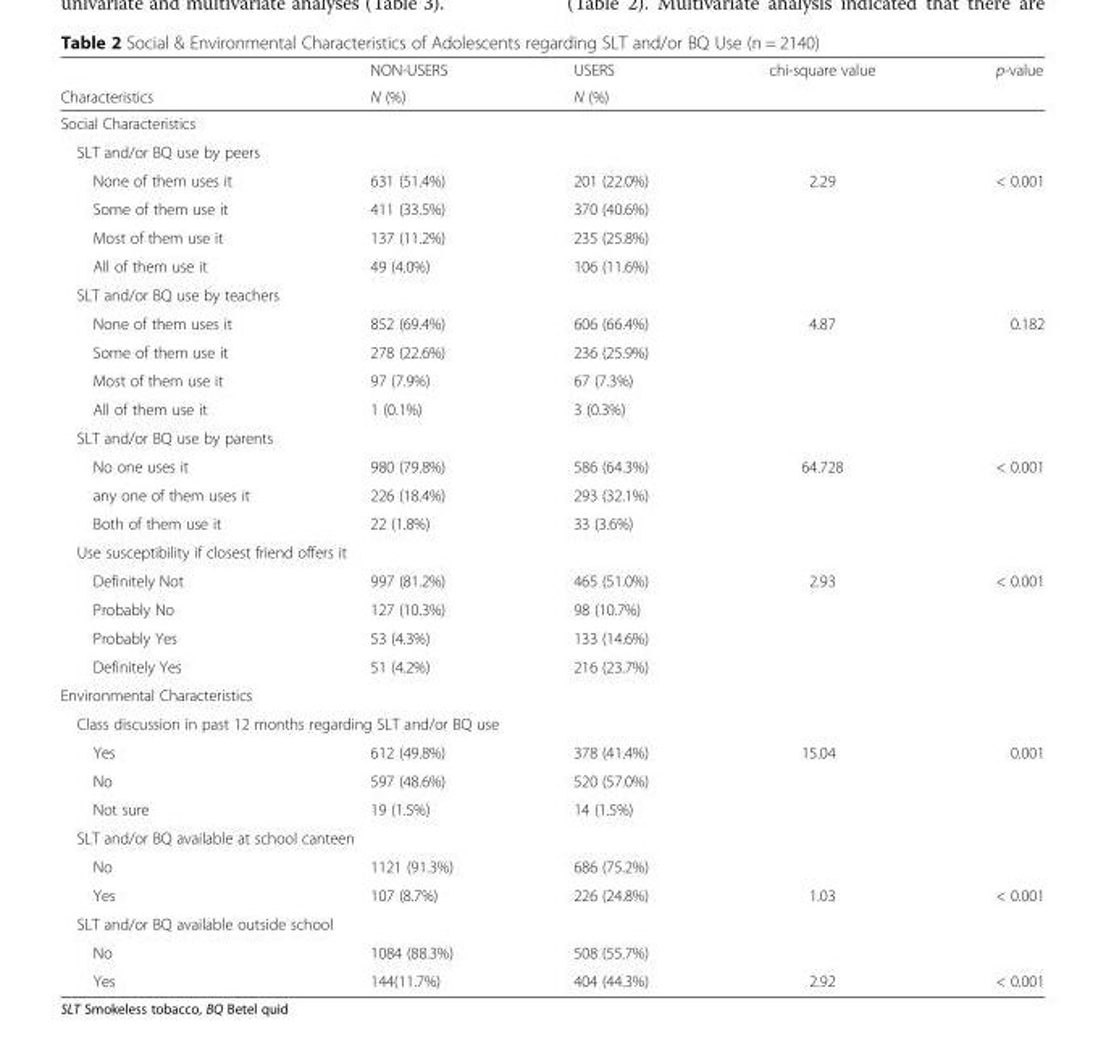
<table><thead><tr><td rowspan="2">Characteristics</td><td rowspan="2">NON-USERS N (%)</td><td rowspan="2">USERS N (%)</td><td rowspan="2">chi-square value</td><td rowspan="2">p-value</td></tr><tr></tr></thead><tbody><tr><td colspan="5">Social Characteristics</td></tr><tr><td colspan="5">SLT and/or BQ use by peers</td></tr><tr><td>None of them uses it</td><td>631 (51.4%)</td><td>201 (22.0%)</td><td>2.29</td><td>&lt; 0.001</td></tr><tr><td>Some of them use it</td><td>411 (33.5%)</td><td>370 (40.6%)</td><td></td><td></td></tr><tr><td>Most of them use it</td><td>137 (11.2%)</td><td>235 (25.8%)</td><td></td><td></td></tr><tr><td>All of them use it</td><td>49 (4.0%)</td><td>106 (11.6%)</td><td></td><td></td></tr><tr><td colspan="5">SLT and/or BQ use by teachers</td></tr><tr><td>None of them uses it</td><td>852 (69.4%)</td><td>606 (66.4%)</td><td>4.87</td><td>0.182</td></tr><tr><td>Some of them use it</td><td>278 (22.6%)</td><td>236 (25.9%)</td><td></td><td></td></tr><tr><td>Most of them use it</td><td>97 (7.9%)</td><td>67 (7.3%)</td><td></td><td></td></tr><tr><td>All of them use it</td><td>1 (0.1%)</td><td>3 (0.3%)</td><td></td><td></td></tr><tr><td colspan="5">SLT and/or BQ use by parents</td></tr><tr><td>No one uses it</td><td>980 (79.8%)</td><td>586 (64.3%)</td><td>64.728</td><td>&lt; 0.001</td></tr><tr><td>any one of them uses it</td><td>226 (18.4%)</td><td>293 (32.1%)</td><td></td><td></td></tr><tr><td>Both of them use it</td><td>22 (1.8%)</td><td>33 (3.6%)</td><td></td><td></td></tr><tr><td colspan="5">Use susceptibility if closest friend offers it</td></tr><tr><td>Definitely Not</td><td>997 (81.2%)</td><td>465 (51.0%)</td><td>2.93</td><td>&lt; 0.001</td></tr><tr><td>Probably No</td><td>127 (10.3%)</td><td>98 (10.7%)</td><td></td><td></td></tr><tr><td>Probably Yes</td><td>53 (4.3%)</td><td>133 (14.6%)</td><td></td><td></td></tr><tr><td>Definitely Yes</td><td>51 (4.2%)</td><td>216 (23.7%)</td><td></td><td></td></tr><tr><td colspan="5">Environmental Characteristics</td></tr><tr><td colspan="5">Class discussion in past 12 months regarding SLT and/or BQ use</td></tr><tr><td>Yes</td><td>612 (49.8%)</td><td>378 (41.4%)</td><td>15.04</td><td>0.001</td></tr><tr><td>No</td><td>597 (48.6%)</td><td>520 (57.0%)</td><td></td><td></td></tr><tr><td>Not sure</td><td>19 (1.5%)</td><td>14 (1.5%)</td><td></td><td></td></tr><tr><td colspan="5">SLT and/or BQ available at school canteen</td></tr><tr><td>No</td><td>1121 (91.3%)</td><td>686 (75.2%)</td><td></td><td></td></tr><tr><td>Yes</td><td>107 (8.7%)</td><td>226 (24.8%)</td><td>1.03</td><td>&lt; 0.001</td></tr><tr><td colspan="5">SLT and/or BQ available outside school</td></tr><tr><td>No</td><td>1084 (88.3%)</td><td>508 (55.7%)</td><td></td><td></td></tr><tr><td>Yes</td><td>144(11.7%)</td><td>404 (44.3%)</td><td>2.92</td><td>&lt; 0.001</td></tr></tbody></table>